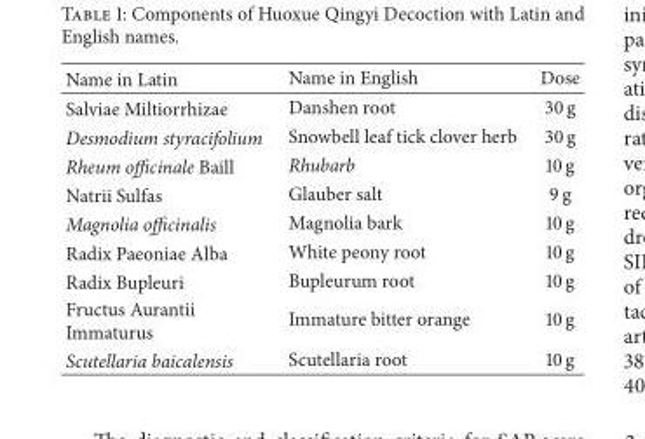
<table><thead><tr><td>Name in Latin</td><td>Name in English</td><td>Dose</td></tr></thead><tbody><tr><td>Salviae Miltiorrhizae</td><td>Danshen root</td><td>30 g</td></tr><tr><td>Desmodium styracifolium</td><td>Snowbell leaf tick clover herb</td><td>30 g</td></tr><tr><td>Rheum officinale Baill</td><td>Rhubarb</td><td>10 g</td></tr><tr><td>Natrii Sulfas</td><td>Glauber salt</td><td>9 g</td></tr><tr><td>Magnolia officinalis</td><td>Magnolia bark</td><td>10 g</td></tr><tr><td>Radix Paeoniae Alba</td><td>White peony root</td><td>10 g</td></tr><tr><td>Radix Bupleuri</td><td>Bupleurum root</td><td>10 g</td></tr><tr><td>Fructus Aurantii Immaturus</td><td>Immature bitter orange</td><td>10 g</td></tr><tr><td>Scutellaria baicalensis</td><td>Scutellaria root</td><td>10 g</td></tr></tbody></table>